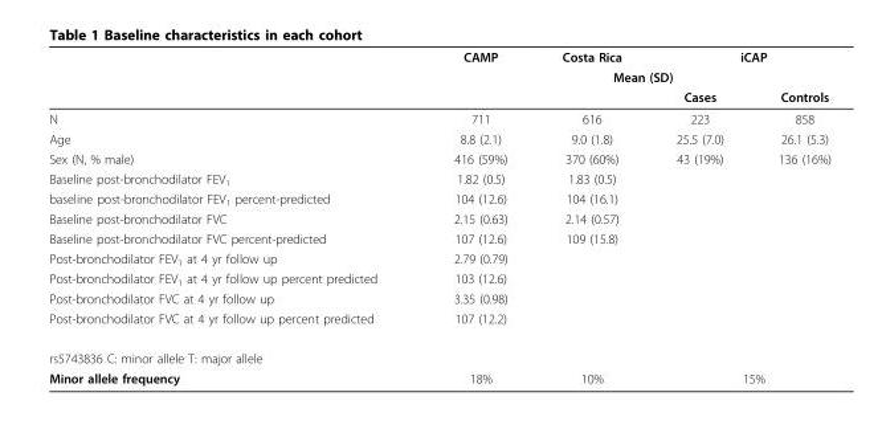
<table><thead><tr><td rowspan="3"></td><td rowspan="3">CAMP</td><td>Costa Rica</td><td colspan="2">iCAP</td></tr><tr><td colspan="2">Mean (SD)</td><td rowspan="2">Controls</td></tr><tr><td></td><td>Cases</td></tr></thead><tbody><tr><td>N</td><td>711</td><td>616</td><td>223</td><td>858</td></tr><tr><td>Age</td><td>8.8 (2.1)</td><td>9.0 (1.8)</td><td>25.5 (7.0)</td><td>26.1 (5.3)</td></tr><tr><td>Sex (N, % male)</td><td>416 (59%)</td><td>370 (60%)</td><td>43 (19%)</td><td>136 (16%)</td></tr><tr><td>Baseline post-bronchodilator FEV<sub>1</sub></td><td>1.82 (0.5)</td><td>1.83 (0.5)</td><td></td><td></td></tr><tr><td>baseline post-bronchodilator FEV<sub>1</sub> percent-predicted</td><td>104 (12.6)</td><td>104 (16.1)</td><td></td><td></td></tr><tr><td>Baseline post-bronchodilator FVC</td><td>2.15 (0.63)</td><td>2.14 (0.57)</td><td></td><td></td></tr><tr><td>Baseline post-bronchodilator FVC percent-predicted</td><td>107 (12.6)</td><td>109 (15.8)</td><td></td><td></td></tr><tr><td>Post-bronchodilator FEV<sub>1</sub> at 4 yr follow up</td><td>2.79 (0.79)</td><td></td><td></td><td></td></tr><tr><td>Post-bronchodilator FEV<sub>1</sub> at 4 yr follow up percent predicted</td><td>103 (12.6)</td><td></td><td></td><td></td></tr><tr><td>Post-bronchodilator FVC at 4 yr follow up</td><td>3.35 (0.98)</td><td></td><td></td><td></td></tr><tr><td>Post-bronchodilator FVC at 4 yr follow up percent predicted</td><td>107 (12.2)</td><td></td><td></td><td></td></tr><tr><td colspan="5">rs5743836 C: minor allele T: major allele</td></tr><tr><td>Minor allele frequency</td><td>18%</td><td>10%</td><td colspan="2">15%</td></tr></tbody></table>